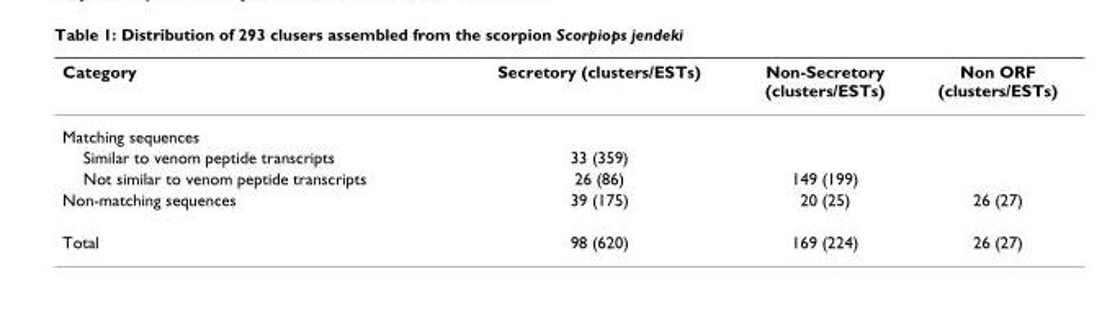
<table><thead><tr><td>Category</td><td>Secretory (clusters/ESTs)</td><td>Non-Secretory (clusters/ESTs)</td><td>Non ORF (clusters/ESTs)</td></tr></thead><tbody><tr><td colspan="4">Matching sequences</td></tr><tr><td>Similar to venom peptide transcripts</td><td>33 (359)</td><td></td><td></td></tr><tr><td>Not similar to venom peptide transcripts</td><td>26 (86)</td><td>149 (199)</td><td></td></tr><tr><td>Non-matching sequences</td><td>39 (175)</td><td>20 (25)</td><td>26 (27)</td></tr><tr><td>Total</td><td>98 (620)</td><td>169 (224)</td><td>26 (27)</td></tr></tbody></table>